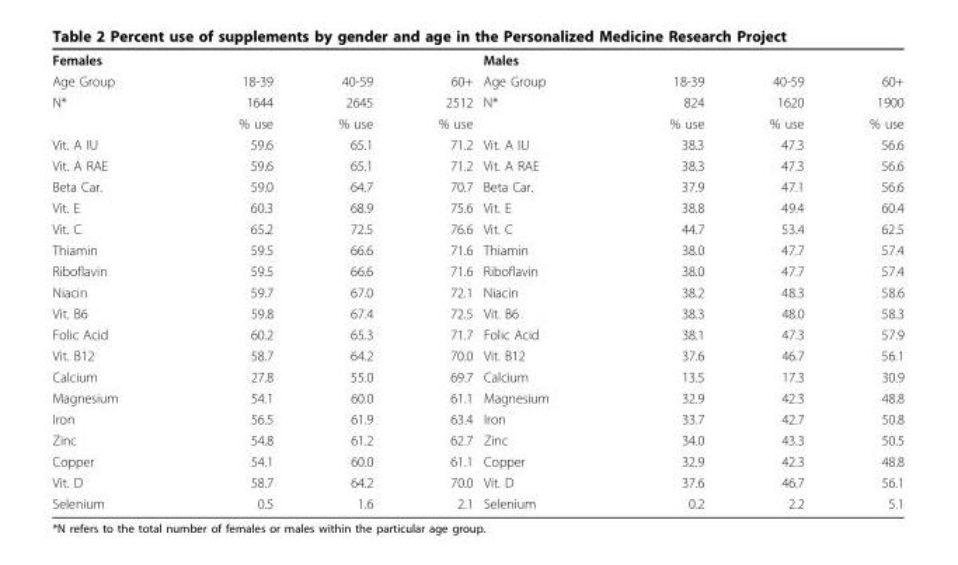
<table><tbody><tr><td>Females</td><td></td><td></td><td></td><td>Males</td><td></td><td></td><td></td></tr><tr><td>Age Group</td><td>18-39</td><td>40-59</td><td>60+</td><td>Age Group</td><td>18-39</td><td>40-59</td><td>60+</td></tr><tr><td rowspan="2">N*</td><td>1644</td><td>2645</td><td>2512</td><td>N*</td><td>824</td><td>1620</td><td>1900</td></tr><tr><td>% use</td><td>% use</td><td>% use</td><td></td><td>% use</td><td>% use</td><td>% use</td></tr><tr><td>Vit. A IU</td><td>59.6</td><td>65.1</td><td>71.2</td><td>Vit. A IU</td><td>38.3</td><td>47.3</td><td>56.6</td></tr><tr><td>Vit. A RAE</td><td>59.6</td><td>65.1</td><td>71.2</td><td>Vit. A RAE</td><td>38.3</td><td>47.3</td><td>56.6</td></tr><tr><td>Beta Car.</td><td>59.0</td><td>64.7</td><td>70.7</td><td>Beta Car.</td><td>37.9</td><td>47.1</td><td>56.6</td></tr><tr><td>Vit. E</td><td>60.3</td><td>68.9</td><td>75.6</td><td>Vit. E</td><td>38.8</td><td>49.4</td><td>60.4</td></tr><tr><td>Vit. C</td><td>65.2</td><td>72.5</td><td>76.6</td><td>Vit. C</td><td>44.7</td><td>53.4</td><td>62.5</td></tr><tr><td>Thiamin</td><td>59.5</td><td>66.6</td><td>71.6</td><td>Thiamin</td><td>38.0</td><td>47.7</td><td>57.4</td></tr><tr><td>Riboflavin</td><td>59.5</td><td>66.6</td><td>71.6</td><td>Riboflavin</td><td>38.0</td><td>47.7</td><td>57.4</td></tr><tr><td>Niacin</td><td>59.7</td><td>67.0</td><td>72.1</td><td>Niacin</td><td>38.2</td><td>48.3</td><td>58.6</td></tr><tr><td>Vit. B6</td><td>59.8</td><td>67.4</td><td>72.5</td><td>Vit. B6</td><td>38.3</td><td>48.0</td><td>58.3</td></tr><tr><td>Folic Acid</td><td>60.2</td><td>65.3</td><td>71.7</td><td>Folic Acid</td><td>38.1</td><td>47.3</td><td>57.9</td></tr><tr><td>Vit. B12</td><td>58.7</td><td>64.2</td><td>70.0</td><td>Vit. B12</td><td>37.6</td><td>46.7</td><td>56.1</td></tr><tr><td>Calcium</td><td>27.8</td><td>55.0</td><td>69.7</td><td>Calcium</td><td>13.5</td><td>17.3</td><td>30.9</td></tr><tr><td>Magnesium</td><td>54.1</td><td>60.0</td><td>61.1</td><td>Magnesium</td><td>32.9</td><td>42.3</td><td>48.8</td></tr><tr><td>Iron</td><td>56.5</td><td>61.9</td><td>63.4</td><td>Iron</td><td>33.7</td><td>42.7</td><td>50.8</td></tr><tr><td>Zinc</td><td>54.8</td><td>61.2</td><td>62.7</td><td>Zinc</td><td>34.0</td><td>43.3</td><td>50.5</td></tr><tr><td>Copper</td><td>54.1</td><td>60.0</td><td>61.1</td><td>Copper</td><td>32.9</td><td>42.3</td><td>48.8</td></tr><tr><td>Vit. D</td><td>58.7</td><td>64.2</td><td>70.0</td><td>Vit. D</td><td>37.6</td><td>46.7</td><td>56.1</td></tr><tr><td>Selenium</td><td>0.5</td><td>1.6</td><td>2.1</td><td>Selenium</td><td>0.2</td><td>2.2</td><td>5.1</td></tr></tbody></table>